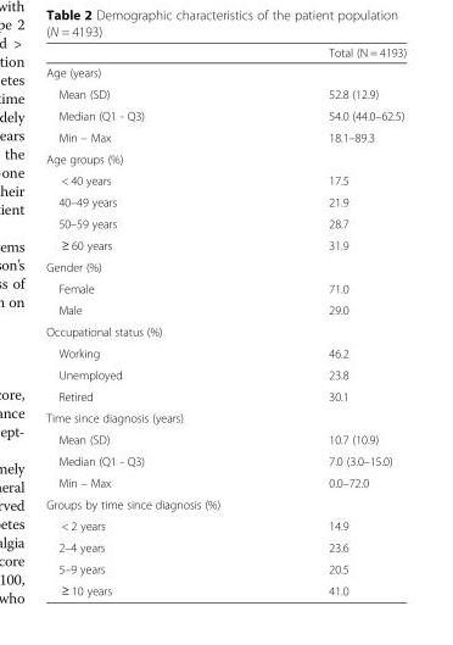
<table><thead><tr><td></td><td>Total (N = 4193)</td></tr></thead><tbody><tr><td colspan="2">Age (years)</td></tr><tr><td>Mean (SD)</td><td>52.8 (12.9)</td></tr><tr><td>Median (Q1 - Q3)</td><td>54.0 (44.0–62.5)</td></tr><tr><td>Min – Max</td><td>18.1–89.3</td></tr><tr><td colspan="2">Age groups (%)</td></tr><tr><td>&lt; 40 years</td><td>17.5</td></tr><tr><td>40–49 years</td><td>21.9</td></tr><tr><td>50–59 years</td><td>28.7</td></tr><tr><td>≥ 60 years</td><td>31.9</td></tr><tr><td colspan="2">Gender (%)</td></tr><tr><td>Female</td><td>71.0</td></tr><tr><td>Male</td><td>29.0</td></tr><tr><td colspan="2">Occupational status (%)</td></tr><tr><td>Working</td><td>46.2</td></tr><tr><td>Unemployed</td><td>23.8</td></tr><tr><td>Retired</td><td>30.1</td></tr><tr><td colspan="2">Time since diagnosis (years)</td></tr><tr><td>Mean (SD)</td><td>10.7 (10.9)</td></tr><tr><td>Median (Q1 - Q3)</td><td>7.0 (3.0–15.0)</td></tr><tr><td>Min – Max</td><td>0.0–72.0</td></tr><tr><td colspan="2">Groups by time since diagnosis (%)</td></tr><tr><td>&lt; 2 years</td><td>14.9</td></tr><tr><td>2–4 years</td><td>23.6</td></tr><tr><td>5–9 years</td><td>20.5</td></tr><tr><td>≥ 10 years</td><td>41.0</td></tr></tbody></table>